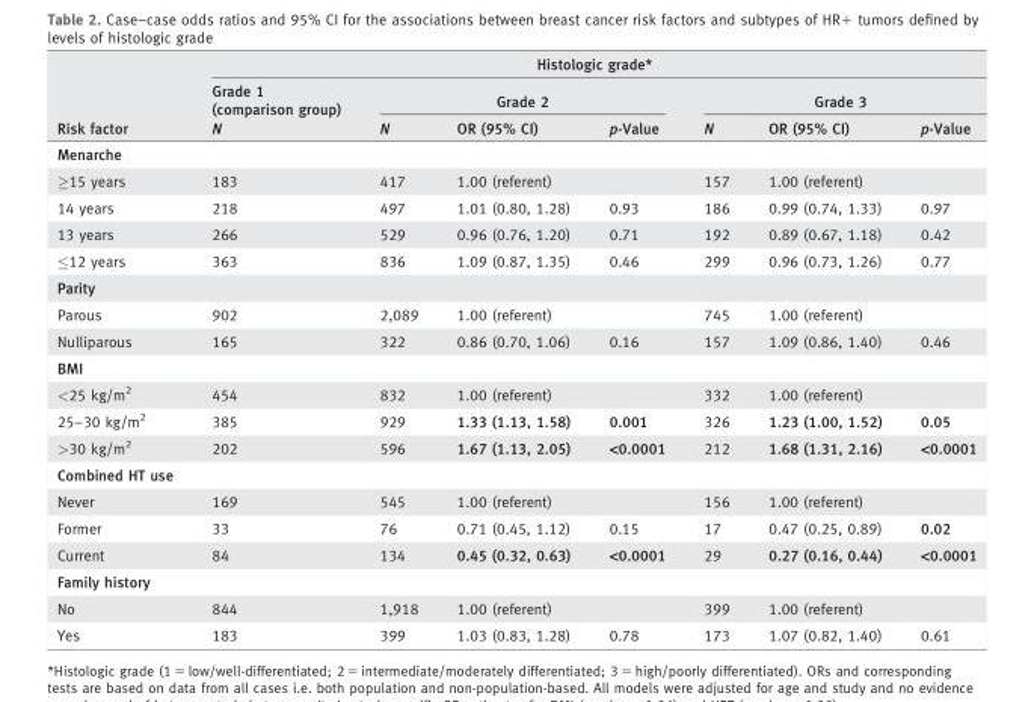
<table><thead><tr><td rowspan="3">Risk factor</td><td colspan="7">Histologic grade*</td></tr><tr><td rowspan="2">Grade 1 (comparison group) N</td><td colspan="3">Grade 2</td><td colspan="3">Grade 3</td></tr><tr><td>N</td><td>OR (95% CI)</td><td>p-Value</td><td>N</td><td>OR (95% CI)</td><td>p-Value</td></tr></thead><tbody><tr><td colspan="8">Menarche</td></tr><tr><td>≥15 years</td><td>183</td><td>417</td><td>1.00 (referent)</td><td></td><td>157</td><td>1.00 (referent)</td><td></td></tr><tr><td>14 years</td><td>218</td><td>497</td><td>1.01 (0.80, 1.28)</td><td>0.93</td><td>186</td><td>0.99 (0.74, 1.33)</td><td>0.97</td></tr><tr><td>13 years</td><td>266</td><td>529</td><td>0.96 (0.76, 1.20)</td><td>0.71</td><td>192</td><td>0.89 (0.67, 1.18)</td><td>0.42</td></tr><tr><td>≤12 years</td><td>363</td><td>836</td><td>1.09 (0.87, 1.35)</td><td>0.46</td><td>299</td><td>0.96 (0.73, 1.26)</td><td>0.77</td></tr><tr><td colspan="8">Parity</td></tr><tr><td>Parous</td><td>902</td><td>2,089</td><td>1.00 (referent)</td><td></td><td>745</td><td>1.00 (referent)</td><td></td></tr><tr><td>Nulliparous</td><td>165</td><td>322</td><td>0.86 (0.70, 1.06)</td><td>0.16</td><td>157</td><td>1.09 (0.86, 1.40)</td><td>0.46</td></tr><tr><td colspan="8">BMI</td></tr><tr><td>&lt;25 kg/m<sup>2</sup></td><td>454</td><td>832</td><td>1.00 (referent)</td><td></td><td>332</td><td>1.00 (referent)</td><td></td></tr><tr><td>25–30 kg/m<sup>2</sup></td><td>385</td><td>929</td><td>1.33 (1.13, 1.58)</td><td>0.001</td><td>326</td><td>1.23 (1.00, 1.52)</td><td>0.05</td></tr><tr><td>&gt;30 kg/m<sup>2</sup></td><td>202</td><td>596</td><td>1.67 (1.13, 2.05)</td><td>&lt;0.0001</td><td>212</td><td>1.68 (1.31, 2.16)</td><td>&lt;0.0001</td></tr><tr><td colspan="8">Combined HT use</td></tr><tr><td>Never</td><td>169</td><td>545</td><td>1.00 (referent)</td><td></td><td>156</td><td>1.00 (referent)</td><td></td></tr><tr><td>Former</td><td>33</td><td>76</td><td>0.71 (0.45, 1.12)</td><td>0.15</td><td>17</td><td>0.47 (0.25, 0.89)</td><td>0.02</td></tr><tr><td>Current</td><td>84</td><td>134</td><td>0.45 (0.32, 0.63)</td><td>&lt;0.0001</td><td>29</td><td>0.27 (0.16, 0.44)</td><td>&lt;0.0001</td></tr><tr><td colspan="8">Family history</td></tr><tr><td>No</td><td>844</td><td>1,918</td><td>1.00 (referent)</td><td></td><td>399</td><td>1.00 (referent)</td><td></td></tr><tr><td>Yes</td><td>183</td><td>399</td><td>1.03 (0.83, 1.28)</td><td>0.78</td><td>173</td><td>1.07 (0.82, 1.40)</td><td>0.61</td></tr></tbody></table>